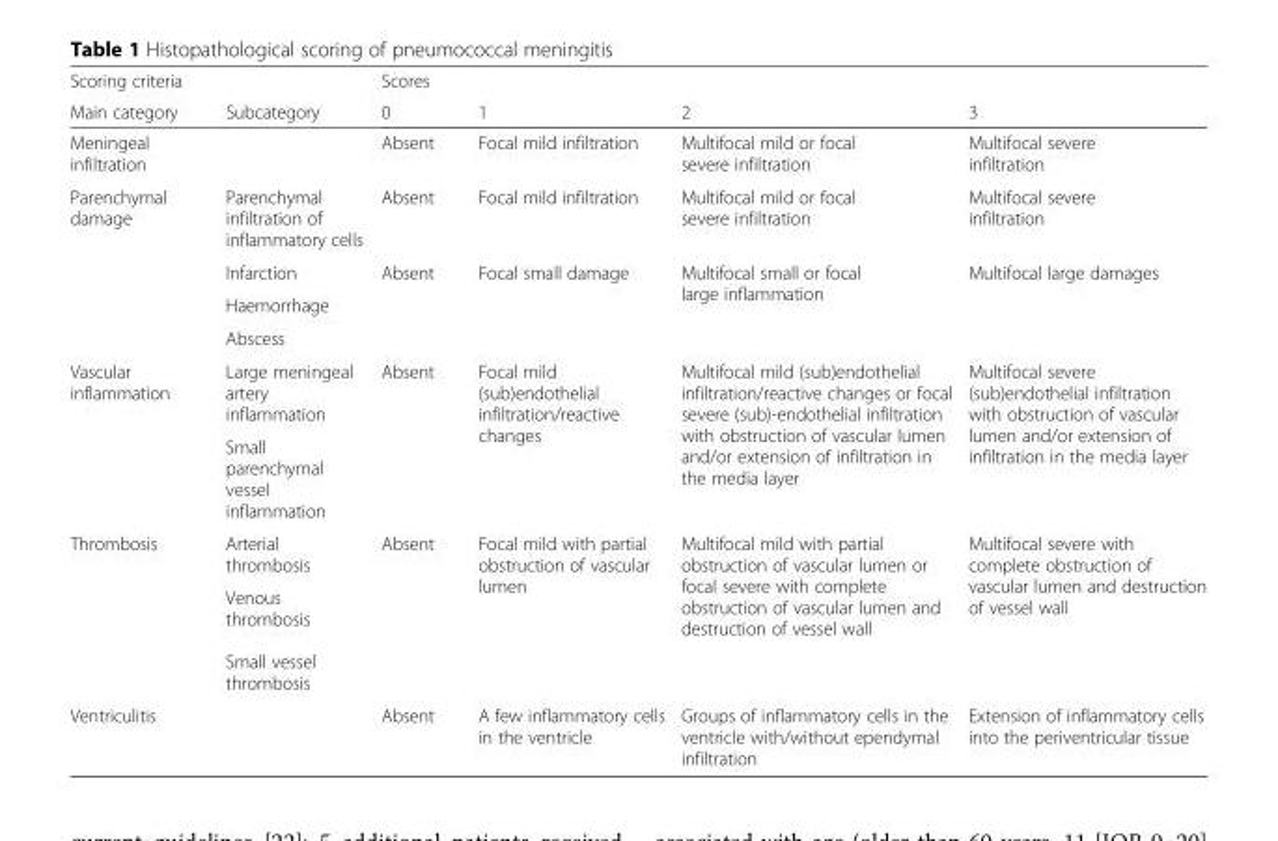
<table><thead><tr><td rowspan="2">Scoring criteria Main category</td><td rowspan="2">Subcategory</td><td rowspan="2">Scores 0</td><td rowspan="2">1</td><td rowspan="2">2</td><td rowspan="2">3</td></tr><tr></tr></thead><tbody><tr><td>Meningeal infiltration</td><td></td><td>Absent</td><td>Focal mild infiltration</td><td>Multifocal mild or focal severe infiltration</td><td>Multifocal severe infiltration</td></tr><tr><td rowspan="4">Parenchymal damage</td><td>Parenchymal infiltration of inflammatory cells</td><td>Absent</td><td>Focal mild infiltration</td><td>Multifocal mild or focal severe infiltration</td><td>Multifocal severe infiltration</td></tr><tr><td>Infarction</td><td rowspan="3">Absent</td><td rowspan="3">Focal small damage</td><td rowspan="2">Multifocal small or focal large inflammation</td><td rowspan="3">Multifocal large damages</td></tr><tr><td>Haemorrhage</td></tr><tr><td>Abscess</td><td></td></tr><tr><td rowspan="2">Vascular inflammation</td><td>Large meningeal artery inflammation</td><td rowspan="2">Absent</td><td rowspan="2">Focal mild (sub)endothelial infiltration/reactive changes</td><td rowspan="2">Multifocal mild (sub)endothelial infiltration/reactive changes or focal severe (sub)-endothelial infiltration with obstruction of vascular lumen and/or extension of infiltration in the media layer</td><td rowspan="2">Multifocal severe (sub)endothelial infiltration with obstruction of vascular lumen and/or extension of infiltration in the media layer</td></tr><tr><td>Small parenchymal vessel inflammation</td></tr><tr><td rowspan="3">Thrombosis</td><td>Arterial thrombosis</td><td rowspan="3">Absent</td><td rowspan="3">Focal mild with partial obstruction of vascular lumen</td><td rowspan="2">Multifocal mild with partial obstruction of vascular lumen or focal severe with complete obstruction of vascular lumen and destruction of vessel wall</td><td rowspan="3">Multifocal severe with complete obstruction of vascular lumen and destruction of vessel wall</td></tr><tr><td>Venous thrombosis</td></tr><tr><td>Small vessel thrombosis</td><td></td></tr><tr><td>Ventriculitis</td><td></td><td>Absent</td><td>A few inflammatory cells in the ventricle</td><td>Groups of inflammatory cells in the ventricle with/without ependymal infiltration</td><td>Extension of inflammatory cells into the periventricular tissue</td></tr></tbody></table>